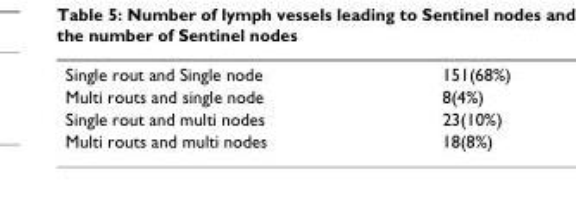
<table><tbody><tr><td>Single rout and Single node</td><td>151(68%)</td></tr><tr><td>Multi routs and single node</td><td>8(4%)</td></tr><tr><td>Single rout and multi nodes</td><td>23(10%)</td></tr><tr><td>Multi routs and multi nodes</td><td>18(8%)</td></tr></tbody></table>